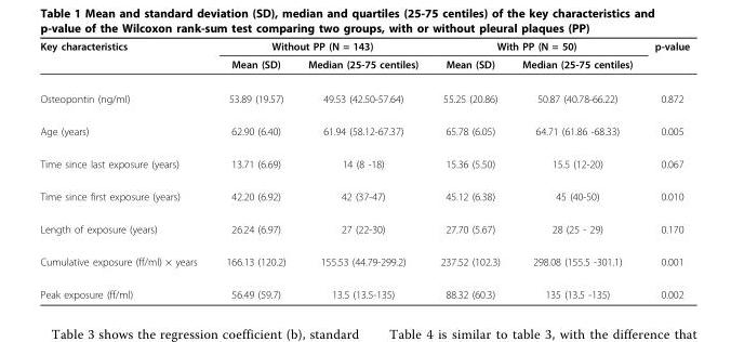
<table><thead><tr><td rowspan="2">Key characteristics</td><td colspan="2">Without PP (N = 143)</td><td colspan="2">With PP (N = 50)</td><td rowspan="2">p-value</td></tr><tr><td>Mean (SD)</td><td>Median (25-75 centiles)</td><td>Mean (SD)</td><td>Median (25-75 centiles)</td></tr></thead><tbody><tr><td>Osteopontin (ng/ml)</td><td>53.89 (19.57)</td><td>49.53 (42.50-57.64)</td><td>55.25 (20.86)</td><td>50.87 (40.78-66.22)</td><td>0.872</td></tr><tr><td>Age (years)</td><td>62.90 (6.40)</td><td>61.94 (58.12-67.37)</td><td>65.78 (6.05)</td><td>64.71 (61.86 -68.33)</td><td>0.005</td></tr><tr><td>Time since last exposure (years)</td><td>13.71 (6.69)</td><td>14 (8 -18)</td><td>15.36 (5.50)</td><td>15.5 (12-20)</td><td>0.067</td></tr><tr><td>Time since first exposure (years)</td><td>42.20 (6.92)</td><td>42 (37-47)</td><td>45.12 (6.38)</td><td>45 (40-50)</td><td>0.010</td></tr><tr><td>Length of exposure (years)</td><td>26.24 (6.97)</td><td>27 (22-30)</td><td>27.70 (5.67)</td><td>28 (25 - 29)</td><td>0.170</td></tr><tr><td>Cumulative exposure (ff/ml) × years</td><td>166.13 (120.2)</td><td>155.53 (44.79-299.2)</td><td>237.52 (102.3)</td><td>298.08 (155.5 -301.1)</td><td>0.001</td></tr><tr><td>Peak exposure (ff/ml)</td><td>56.49 (59.7)</td><td>13.5 (13.5-135)</td><td>88.32 (60.3)</td><td>135 (13.5 -135)</td><td>0.002</td></tr></tbody></table>